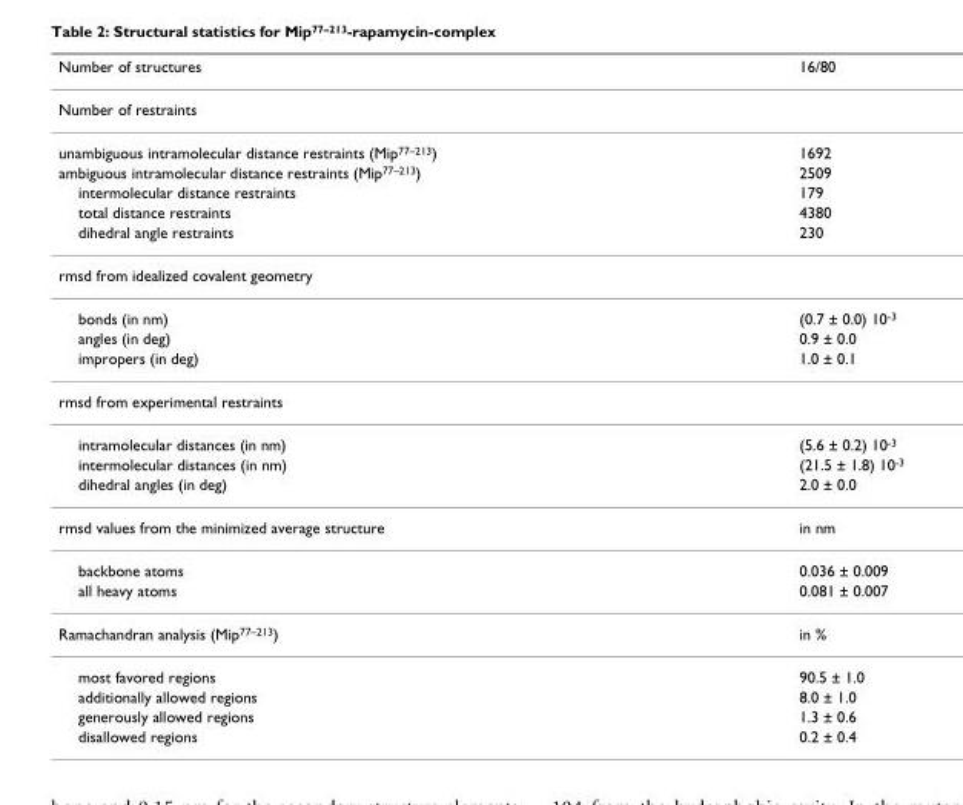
<table><thead><tr><td>Number of structures</td><td>16/80</td></tr></thead><tbody><tr><td colspan="2">Number of restraints</td></tr><tr><td>unambiguous intramolecular distance restraints (Mip<sup>77–213</sup>)</td><td>1692</td></tr><tr><td>ambiguous intramolecular distance restraints (Mip<sup>77–213</sup>)</td><td>2509</td></tr><tr><td>intermolecular distance restraints</td><td>179</td></tr><tr><td>total distance restraints</td><td>4380</td></tr><tr><td>dihedral angle restraints</td><td>230</td></tr><tr><td colspan="2">rmsd from idealized covalent geometry</td></tr><tr><td>bonds (in nm)</td><td>(0.7 ± 0.0) 10<sup>-3</sup></td></tr><tr><td>angles (in deg)</td><td>0.9 ± 0.0</td></tr><tr><td>impropers (in deg)</td><td>1.0 ± 0.1</td></tr><tr><td colspan="2">rmsd from experimental restraints</td></tr><tr><td>intramolecular distances (in nm)</td><td>(5.6 ± 0.2) 10<sup>-3</sup></td></tr><tr><td>intermolecular distances (in nm)</td><td>(21.5 ± 1.8) 10<sup>-3</sup></td></tr><tr><td>dihedral angles (in deg)</td><td>2.0 ± 0.0</td></tr><tr><td>rmsd values from the minimized average structure</td><td>in nm</td></tr><tr><td>backbone atoms</td><td>0.036 ± 0.009</td></tr><tr><td>all heavy atoms</td><td>0.081 ± 0.007</td></tr><tr><td>Ramachandran analysis (Mip<sup>77–213</sup>)</td><td>in %</td></tr><tr><td>most favored regions</td><td>90.5 ± 1.0</td></tr><tr><td>additionally allowed regions</td><td>8.0 ± 1.0</td></tr><tr><td>generously allowed regions</td><td>1.3 ± 0.6</td></tr><tr><td>disallowed regions</td><td>0.2 ± 0.4</td></tr></tbody></table>